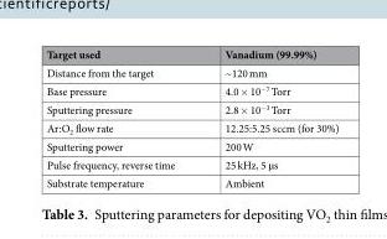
<table><thead><tr><td>Target used</td><td>Vanadium (99.99%)</td></tr></thead><tbody><tr><td>Distance from the target</td><td>~120 mm</td></tr><tr><td>Base pressure</td><td>4.0 × 10<sup>−7</sup> Torr</td></tr><tr><td>Sputtering pressure</td><td>2.8 × 10<sup>−3</sup> Torr</td></tr><tr><td>Ar:O<sub>2</sub> flow rate</td><td>12.25:5.25 sccm (for 30%)</td></tr><tr><td>Sputtering power</td><td>200 W</td></tr><tr><td>Pulse frequency, reverse time</td><td>25 kHz, 5 µs</td></tr><tr><td>Substrate temperature</td><td>Ambient</td></tr></tbody></table>